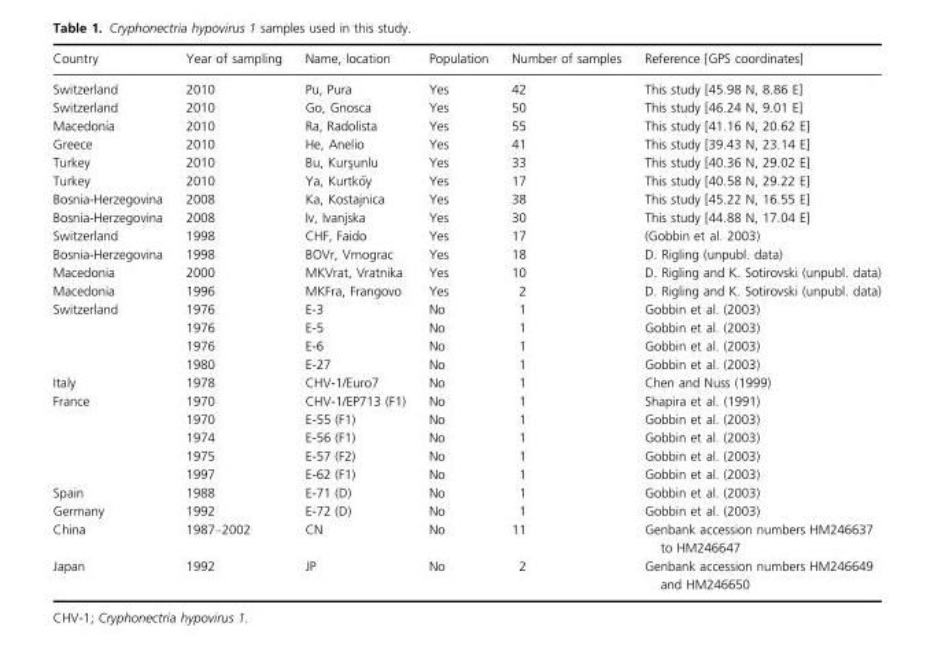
<table><thead><tr><td>Country</td><td>Year of sampling</td><td>Name, location</td><td>Population</td><td>Number of samples</td><td>Reference [GPS coordinates]</td></tr></thead><tbody><tr><td>Switzerland</td><td>2010</td><td>Pu, Pura</td><td>Yes</td><td>42</td><td>This study [45.98 N, 8.86 E]</td></tr><tr><td>Switzerland</td><td>2010</td><td>Go, Gnosca</td><td>Yes</td><td>50</td><td>This study [46.24 N, 9.01 E]</td></tr><tr><td>Macedonia</td><td>2010</td><td>Ra, Radolista</td><td>Yes</td><td>55</td><td>This study [41.16 N, 20.62 E]</td></tr><tr><td>Greece</td><td>2010</td><td>He, Anelio</td><td>Yes</td><td>41</td><td>This study [39.43 N, 23.14 E]</td></tr><tr><td>Turkey</td><td>2010</td><td>Bu, Kurs�unlu</td><td>Yes</td><td>33</td><td>This study [40.36 N, 29.02 E]</td></tr><tr><td>Turkey</td><td>2010</td><td>Ya, Kurtk€oy</td><td>Yes</td><td>17</td><td>This study [40.58 N, 29.22 E]</td></tr><tr><td>Bosnia-Herzegovina</td><td>2008</td><td>Ka, Kostajnica</td><td>Yes</td><td>38</td><td>This study [45.22 N, 16.55 E]</td></tr><tr><td>Bosnia-Herzegovina</td><td>2008</td><td>Iv, Ivanjska</td><td>Yes</td><td>30</td><td>This study [44.88 N, 17.04 E]</td></tr><tr><td>Switzerland</td><td>1998</td><td>CHF, Faido</td><td>Yes</td><td>17</td><td>(Gobbin et al. 2003)</td></tr><tr><td>Bosnia-Herzegovina</td><td>1998</td><td>BOVr, Vrnograc</td><td>Yes</td><td>18</td><td>D. Rigling (unpubl. data)</td></tr><tr><td>Macedonia</td><td>2000</td><td>MKVrat, Vratnika</td><td>Yes</td><td>10</td><td>D. Rigling and K. Sotirovski (unpubl. data)</td></tr><tr><td>Macedonia</td><td>1996</td><td>MKFra, Frangovo</td><td>Yes</td><td>2</td><td>D. Rigling and K. Sotirovski (unpubl. data)</td></tr><tr><td rowspan="4">Switzerland</td><td>1976</td><td>E-3</td><td>No</td><td>1</td><td>Gobbin et al. (2003)</td></tr><tr><td>1976</td><td>E-5</td><td>No</td><td>1</td><td>Gobbin et al. (2003)</td></tr><tr><td>1976</td><td>E-6</td><td>No</td><td>1</td><td>Gobbin et al. (2003)</td></tr><tr><td>1980</td><td>E-27</td><td>No</td><td>1</td><td>Gobbin et al. (2003)</td></tr><tr><td>Italy</td><td>1978</td><td>CHV-1/Euro7</td><td>No</td><td>1</td><td>Chen and Nuss (1999)</td></tr><tr><td rowspan="5">France</td><td>1970</td><td>CHV-1/EP713 (F1)</td><td>No</td><td>1</td><td>Shapira et al. (1991)</td></tr><tr><td>1970</td><td>E-55 (F1)</td><td>No</td><td>1</td><td>Gobbin et al. (2003)</td></tr><tr><td>1974</td><td>E-56 (F1)</td><td>No</td><td>1</td><td>Gobbin et al. (2003)</td></tr><tr><td>1975</td><td>E-57 (F2)</td><td>No</td><td>1</td><td>Gobbin et al. (2003)</td></tr><tr><td>1997</td><td>E-62 (F1)</td><td>No</td><td>1</td><td>Gobbin et al. (2003)</td></tr><tr><td>Spain</td><td>1988</td><td>E-71 (D)</td><td>No</td><td>1</td><td>Gobbin et al. (2003)</td></tr><tr><td>Germany</td><td>1992</td><td>E-72 (D)</td><td>No</td><td>1</td><td>Gobbin et al. (2003)</td></tr><tr><td>China</td><td>1987–2002</td><td>CN</td><td>No</td><td>11</td><td>Genbank accession numbers HM246637 to HM246647</td></tr><tr><td>Japan</td><td>1992</td><td>JP</td><td>No</td><td>2</td><td>Genbank accession numbers HM246649 and HM246650</td></tr></tbody></table>